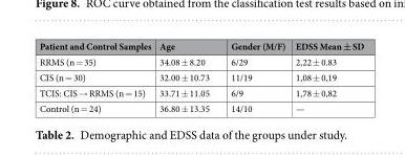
<table><thead><tr><td>Patient and Control Samples</td><td>Age</td><td>Gender (M/F)</td><td>EDSS Mean ± SD</td></tr></thead><tbody><tr><td>RRMS (n = 35)</td><td>34.08 ± 8.20</td><td>6/29</td><td>2,22 ± 0.83</td></tr><tr><td>CIS (n = 30)</td><td>32.00 ± 10.73</td><td>11/19</td><td>1,08 ± 0,19</td></tr><tr><td>TCIS: CIS → RRMS (n = 15)</td><td>33.71 ± 11.05</td><td>6/9</td><td>1,78 ± 0,82</td></tr><tr><td>Control (n = 24)</td><td>36.80 ± 13.35</td><td>14/10</td><td>—</td></tr></tbody></table>